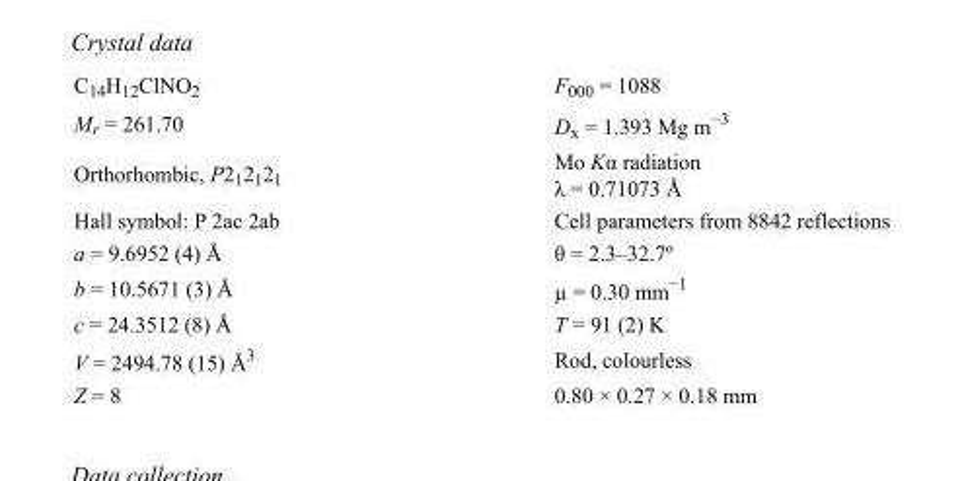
<table><tbody><tr><td>C<sub>14</sub>H<sub>12</sub>ClNO<sub>2</sub></td><td>F000 = 1088</td></tr><tr><td>M<sub>r</sub> = 261.70</td><td>D<sub>x</sub> = 1.393 Mg m<sup>−3</sup></td></tr><tr><td>Orthorhombic, P2<sub>1</sub>2<sub>1</sub>2<sub>1</sub></td><td>Mo Kα radiation λ = 0.71073 Å</td></tr><tr><td>Hall symbol: P 2ac 2ab</td><td>Cell parameters from 8842 reflections</td></tr><tr><td>a = 9.6952 (4) Å</td><td>θ = 2.3–32.7º</td></tr><tr><td>b = 10.5671 (3) Å</td><td>µ = 0.30 mm<sup>−1</sup></td></tr><tr><td>c = 24.3512 (8) Å</td><td>T = 91 (2) K</td></tr><tr><td>V = 2494.78 (15) Å<sup>3</sup></td><td>Rod, colourless</td></tr><tr><td>Z = 8</td><td>0.80 × 0.27 × 0.18 mm</td></tr></tbody></table>